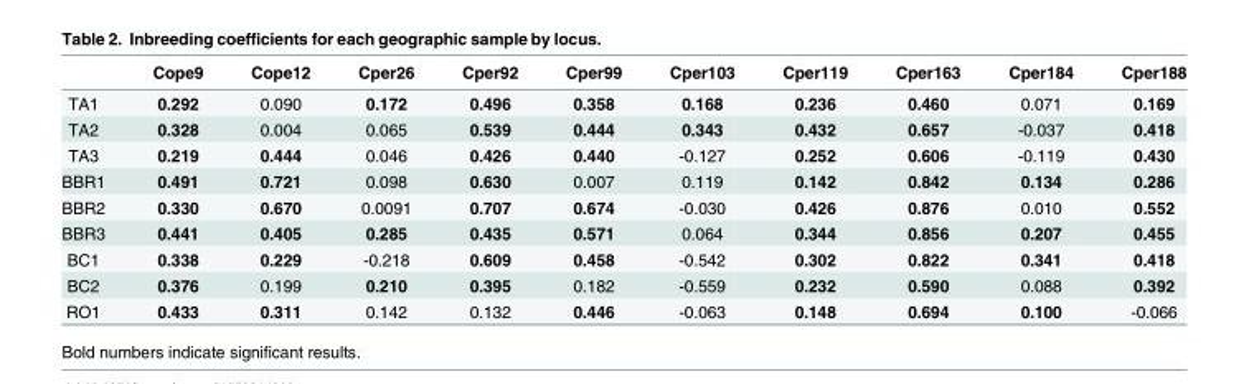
<table><thead><tr><td></td><td>Cope9</td><td>Cope12</td><td>Cper26</td><td>Cper92</td><td>Cper99</td><td>Cper103</td><td>Cper119</td><td>Cper163</td><td>Cper184</td><td>Cper188</td></tr></thead><tbody><tr><td>TA1</td><td>0.292</td><td>0.090</td><td>0.172</td><td>0.496</td><td>0.358</td><td>0.168</td><td>0.236</td><td>0.460</td><td>0.071</td><td>0.169</td></tr><tr><td>TA2</td><td>0.328</td><td>0.004</td><td>0.065</td><td>0.539</td><td>0.444</td><td>0.343</td><td>0.432</td><td>0.657</td><td>-0.037</td><td>0.418</td></tr><tr><td>TA3</td><td>0.219</td><td>0.444</td><td>0.046</td><td>0.426</td><td>0.440</td><td>-0.127</td><td>0.252</td><td>0.606</td><td>-0.119</td><td>0.430</td></tr><tr><td>BBR1</td><td>0.491</td><td>0.721</td><td>0.098</td><td>0.630</td><td>0.007</td><td>0.119</td><td>0.142</td><td>0.842</td><td>0.134</td><td>0.286</td></tr><tr><td>BBR2</td><td>0.330</td><td>0.670</td><td>0.0091</td><td>0.707</td><td>0.674</td><td>-0.030</td><td>0.426</td><td>0.876</td><td>0.010</td><td>0.552</td></tr><tr><td>BBR3</td><td>0.441</td><td>0.405</td><td>0.285</td><td>0.435</td><td>0.571</td><td>0.064</td><td>0.344</td><td>0.856</td><td>0.207</td><td>0.455</td></tr><tr><td>BC1</td><td>0.338</td><td>0.229</td><td>-0.218</td><td>0.609</td><td>0.458</td><td>-0.542</td><td>0.302</td><td>0.822</td><td>0.341</td><td>0.418</td></tr><tr><td>BC2</td><td>0.376</td><td>0.199</td><td>0.210</td><td>0.395</td><td>0.182</td><td>-0.559</td><td>0.232</td><td>0.590</td><td>0.088</td><td>0.392</td></tr><tr><td>RO1</td><td>0.433</td><td>0.311</td><td>0.142</td><td>0.132</td><td>0.446</td><td>-0.063</td><td>0.148</td><td>0.694</td><td>0.100</td><td>-0.066</td></tr></tbody></table>